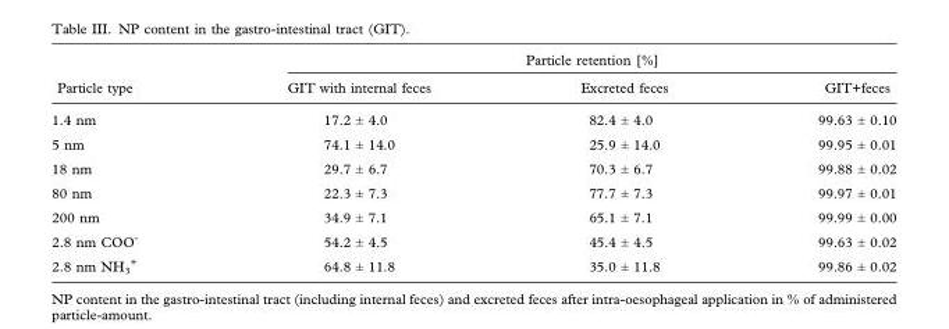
<table><thead><tr><td rowspan="2">Particle type</td><td colspan="3">Particle retention [%]</td></tr><tr><td>GIT with internal feces</td><td>Excreted feces</td><td>GIT+feces</td></tr></thead><tbody><tr><td>1.4 nm</td><td>17.2 ± 4.0</td><td>82.4 ± 4.0</td><td>99.63 ± 0.10</td></tr><tr><td>5 nm</td><td>74.1 ± 14.0</td><td>25.9 ± 14.0</td><td>99.95 ± 0.01</td></tr><tr><td>18 nm</td><td>29.7 ± 6.7</td><td>70.3 ± 6.7</td><td>99.88 ± 0.02</td></tr><tr><td>80 nm</td><td>22.3 ± 7.3</td><td>77.7 ± 7.3</td><td>99.97 ± 0.01</td></tr><tr><td>200 nm</td><td>34.9 ± 7.1</td><td>65.1 ± 7.1</td><td>99.99 ± 0.00</td></tr><tr><td>2.8 nm COO<sup>-</sup></td><td>54.2 ± 4.5</td><td>45.4 ± 4.5</td><td>99.63 ± 0.02</td></tr><tr><td>2.8 nm NH<sub>3</sub> <sup>+</sup></td><td>64.8 ± 11.8</td><td>35.0 ± 11.8</td><td>99.86 ± 0.02</td></tr></tbody></table>